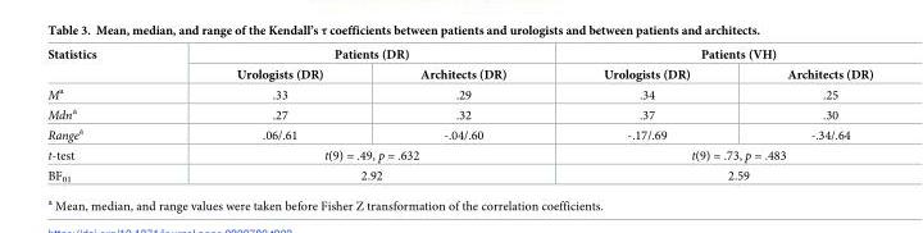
<table><thead><tr><td rowspan="2">Statistics</td><td colspan="2">Patients (DR)</td><td colspan="2">Patients (VH)</td></tr><tr><td>Urologists (DR)</td><td>Architects (DR)</td><td>Urologists (DR)</td><td>Architects (DR)</td></tr></thead><tbody><tr><td>M<sup>a</sup></td><td>.33</td><td>.29</td><td>.34</td><td>.25</td></tr><tr><td>Mdn<sup>a</sup></td><td>.27</td><td>.32</td><td>.37</td><td>.30</td></tr><tr><td>Range<sup>a</sup></td><td>.06/.61</td><td>-.04/.60</td><td>-.17/.69</td><td>-.34/.64</td></tr><tr><td>t-test</td><td colspan="2">t(9) = .49, p = .632</td><td colspan="2">t(9) = .73, p = .483</td></tr><tr><td>BF<sub>01</sub></td><td colspan="2">2.92</td><td colspan="2">2.59</td></tr></tbody></table>